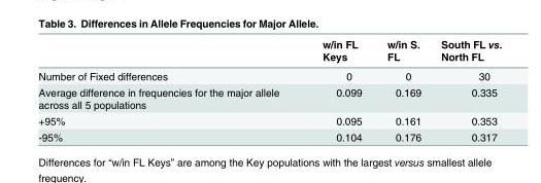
<table><thead><tr><td></td><td>w/in FL Keys</td><td>w/in S. FL</td><td>South FL vs. North FL</td></tr></thead><tbody><tr><td>Number of Fixed differences</td><td>0</td><td>0</td><td>30</td></tr><tr><td>Average difference in frequencies for the major allele across all 5 populations</td><td>0.099</td><td>0.169</td><td>0.335</td></tr><tr><td>+95%</td><td>0.095</td><td>0.161</td><td>0.353</td></tr><tr><td>-95%</td><td>0.104</td><td>0.176</td><td>0.317</td></tr></tbody></table>